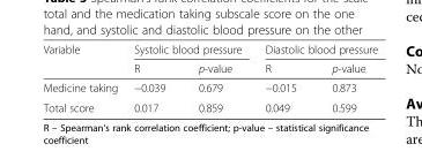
<table><thead><tr><td rowspan="2">Variable</td><td colspan="2">Systolic blood pressure</td><td colspan="2">Diastolic blood pressure</td></tr><tr><td>R</td><td>p-value</td><td>R</td><td>p-value</td></tr></thead><tbody><tr><td>Medicine taking</td><td>−0.039</td><td>0.679</td><td>−0.015</td><td>0.873</td></tr><tr><td>Total score</td><td>0.017</td><td>0.859</td><td>0.049</td><td>0.599</td></tr></tbody></table>